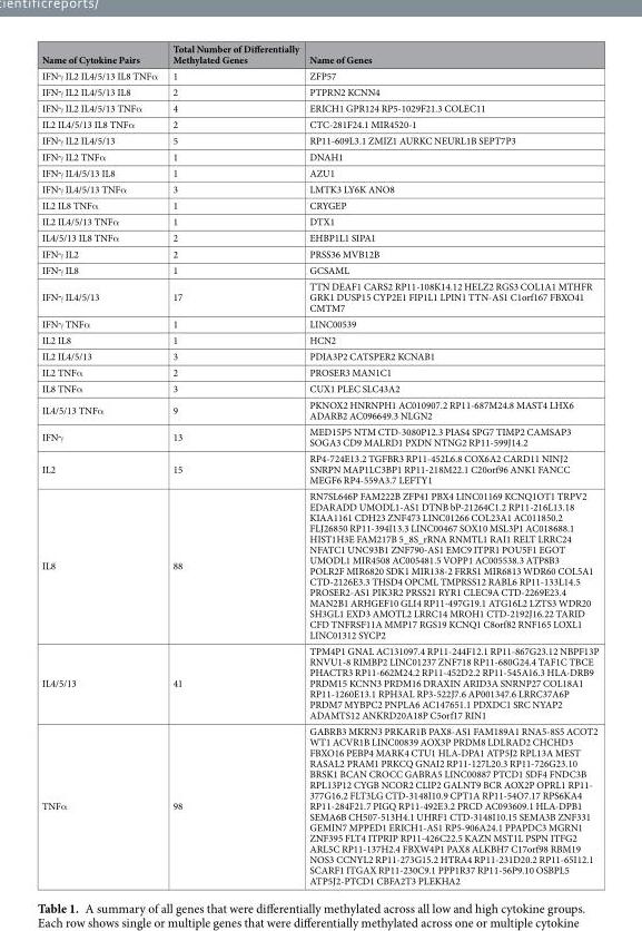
<table><thead><tr><td>Name of Cytokine Pairs</td><td>Total Number of Differentially Methylated Genes</td><td>Name of Genes</td></tr></thead><tbody><tr><td>IFNγ IL2 IL4/5/13 IL8 TNFα</td><td>1</td><td>ZFP57</td></tr><tr><td>IFNγ IL2 IL4/5/13 IL8</td><td>2</td><td>PTPRN2 KCNN4</td></tr><tr><td>IFNγ IL2 IL4/5/13 TNFα</td><td>4</td><td>ERICH1 GPR124 RP5-1029F21.3 COLEC11</td></tr><tr><td>IL2 IL4/5/13 IL8 TNFα</td><td>2</td><td>CTC-281F24.1 MIR4520-1</td></tr><tr><td>IFNγ IL2 IL4/5/13</td><td>5</td><td>RP11-609L3.1 ZMIZ1 AURKC NEURL1B SEPT7P3</td></tr><tr><td>IFNγ IL2 TNFα</td><td>1</td><td>DNAH1</td></tr><tr><td>IFNγ IL4/5/13 IL8</td><td>1</td><td>AZU1</td></tr><tr><td>IFNγ IL4/5/13 TNFα</td><td>3</td><td>LMTK3 LY6K ANO8</td></tr><tr><td>IL2 IL8 TNFα</td><td>1</td><td>CRYGEP</td></tr><tr><td>IL2 IL4/5/13 TNFα</td><td>1</td><td>DTX1</td></tr><tr><td>IL4/5/13 IL8 TNFα</td><td>2</td><td>EHBP1L1 SIPA1</td></tr><tr><td>IFNγ IL2</td><td>2</td><td>PRSS36 MVB12B</td></tr><tr><td>IFNγ IL8</td><td>1</td><td>GCSAML</td></tr><tr><td>IFNγ IL4/5/13</td><td>17</td><td>TTN DEAF1 CARS2 RP11-108K14.12 HELZ2 RGS3 COL1A1 MTHFR GRK1 DUSP15 CYP2E1 FIP1L1 LPIN1 TTN-AS1 C1orf167 FBXO41 CMTM7</td></tr><tr><td>IFNγ TNFα</td><td>1</td><td>LINC00539</td></tr><tr><td>IL2 IL8</td><td>1</td><td>HCN2</td></tr><tr><td>IL2 IL4/5/13</td><td>3</td><td>PDIA3P2 CATSPER2 KCNAB1</td></tr><tr><td>IL2 TNFα</td><td>2</td><td>PROSER3 MAN1C1</td></tr><tr><td>IL8 TNFα</td><td>3</td><td>CUX1 PLEC SLC43A2</td></tr><tr><td>IL4/5/13 TNFα</td><td>9</td><td>PKNOX2 HNRNPH1 AC010907.2 RP11-687M24.8 MAST4 LHX6 ADARB2 AC096649.3 NLGN2</td></tr><tr><td>IFNγ</td><td>13</td><td>MED15P5 NTM CTD-3080P12.3 PIAS4 SPG7 TIMP2 CAMSAP3 SOGA3 CD9 MALRD1 PXDN NTNG2 RP11-599J14.2</td></tr><tr><td>IL2</td><td>15</td><td>RP4-724E13.2 TGFBR3 RP11-452L6.8 COX6A2 CARD11 NINJ2 SNRPN MAP1LC3BP1 RP11-218M22.1 C20orf96 ANK1 FANCC MEGF6 RP4-559A3.7 LEFTY1</td></tr><tr><td>IL8</td><td>88</td><td>RN7SL646P FAM222B ZFP41 PBX4 LINC01169 KCNQ1OT1 TRPV2 EDARADD UMODL1-AS1 DTNB bP-21264C1.2 RP11-216L13.18 KIAA1161 CDH23 ZNF473 LINC01266 COL23A1 AC011850.2 FLJ26850 RP11-394I13.3 LINC00467 SOX10 MSL3P1 AC018688.1 HIST1H3E FAM217B 5_8S_rRNA RNMTL1 RAI1 RELT LRRC24 NFATC1 UNC93B1 ZNF790-AS1 EMC9 ITPR1 POU5F1 EGOT UMODL1 MIR4508 AC005481.5 VOPP1 AC005538.3 ATP8B3 POLR2F MIR6820 SDK1 MIR138-2 FRRS1 MIR6813 WDR60 COL5A1 CTD-2126E3.3 THSD4 OPCML TMPRSS12 RABL6 RP11-133L14.5 PROSER2-AS1 PIK3R2 PRSS21 RYR1 CLEC9A CTD-2269E23.4 MAN2B1 ARHGEF10 GLI4 RP11-497G19.1 ATG16L2 LZTS3 WDR20 SH3GL1 EXD3 AMOTL2 LRRC14 MROH1 CTD-2192J16.22 TARID CFD TNFRSF11A MMP17 RGS19 KCNQ1 C8orf82 RNF165 LOXL1 LINC01312 SYCP2</td></tr><tr><td>IL4/5/13</td><td>41</td><td>TPM4P1 GNAL AC131097.4 RP11-244F12.1 RP11-867G23.12 NBPF13P RNVU1-8 RIMBP2 LINC01237 ZNF718 RP11-680G24.4 TAF1C TBCE PHACTR3 RP11-662M24.2 RP11-452D2.2 RP11-545A16.3 HLA-DRB9 PRDM15 KCNN3 PRDM16 DRAXIN ARID3A SNRNP27 COL18A1 RP11-1260E13.1 RPH3AL RP3-522J7.6 AP001347.6 LRRC37A6P PRDM7 MYBPC2 PNPLA6 AC147651.1 PDXDC1 SRC NYAP2 ADAMTS12 ANKRD20A18P C5orf17 RIN1</td></tr><tr><td>TNFα</td><td>98</td><td>GABRB3 MKRN3 PRKAR1B PAX8-AS1 FAM189A1 RNA5-8S5 ACOT2 WT1 ACVR1B LINC00839 AOX3P PRDM8 LDLRAD2 CHCHD3 FBXO16 PEBP4 MARK4 CTU1 HLA-DPA1 ATP5J2 RPL13A MEST RASAL2 PRAM1 PRKCQ GNAI2 RP11-127L20.3 RP11-726G23.10 BRSK1 BCAN CROCC GABRA5 LINC00887 PTCD1 SDF4 FNDC3B RPL13P12 CYGB NCOR2 CLIP2 GALNT9 BCR AOX2P OPRL1 RP11- 377G16.2 FLT3LG CTD-3148I10.9 CPT1A RP11-54O7.17 RPS6KA4 RP11-284F21.7 PIGQ RP11-492E3.2 PRCD AC093609.1 HLA-DPB1 SEMA6B CH507-513H4.1 UHRF1 CTD-3148I10.15 SEMA3B ZNF331 GEMIN7 MPPED1 ERICH1-AS1 RP5-906A24.1 PPAPDC3 MGRN1 ZNF395 FLT4 ITPRIP RP11-426C22.5 KAZN MST1L PSPN ITFG2 ARL5C RP11-137H2.4 FBXW4P1 PAX8 ALKBH7 C17orf98 RBM19 NOS3 CCNYL2 RP11-273G15.2 HTRA4 RP11-231D20.2 RP11-65I12.1 SCARF1 ITGAX RP11-230C9.1 PPP1R37 RP11-56P9.10 OSBPL5 ATP5J2-PTCD1 CBFA2T3 PLEKHA2</td></tr></tbody></table>